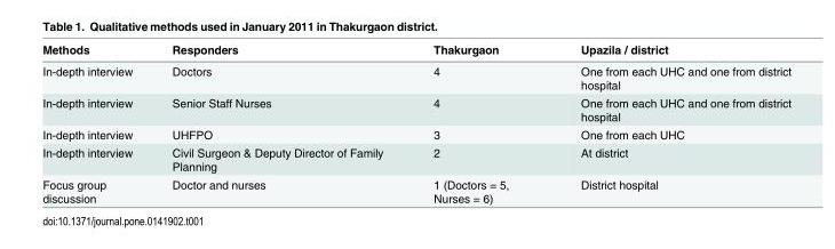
<table><thead><tr><td>Methods</td><td>Responders</td><td>Thakurgaon</td><td>Upazila / district</td></tr></thead><tbody><tr><td>In-depth interview</td><td>Doctors</td><td>4</td><td>One from each UHC and one from district hospital</td></tr><tr><td>In-depth interview</td><td>Senior Staff Nurses</td><td>4</td><td>One from each UHC and one from district hospital</td></tr><tr><td>In-depth interview</td><td>UHFPO</td><td>3</td><td>One from each UHC</td></tr><tr><td>In-depth interview</td><td>Civil Surgeon &amp; Deputy Director of Family Planning</td><td>2</td><td>At district</td></tr><tr><td>Focus group discussion</td><td>Doctor and nurses</td><td>1 (Doctors = 5, Nurses = 6)</td><td>District hospital</td></tr></tbody></table>